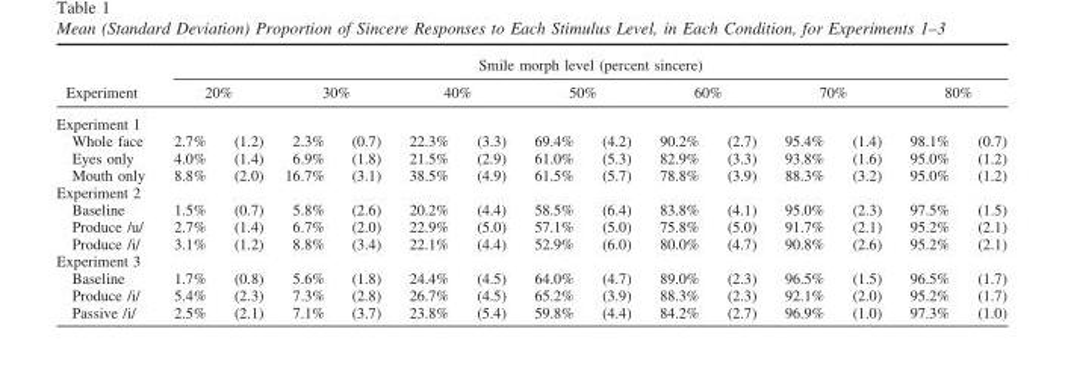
<table><thead><tr><td rowspan="3">Experiment Experiment 1</td><td colspan="14">Smile morph level (percent sincere)</td></tr><tr><td colspan="2">20%</td><td colspan="2">30%</td><td colspan="2">40%</td><td colspan="2">50%</td><td colspan="2">60%</td><td colspan="2">70%</td><td colspan="2">80%</td></tr><tr><td></td><td></td><td></td><td></td><td></td><td></td><td></td><td></td><td></td><td></td><td></td><td></td><td></td><td></td></tr></thead><tbody><tr><td>Whole face</td><td>2.7%</td><td>(1.2)</td><td>2.3%</td><td>(0.7)</td><td>22.3%</td><td>(3.3)</td><td>69.4%</td><td>(4.2)</td><td>90.2%</td><td>(2.7)</td><td>95.4%</td><td>(1.4)</td><td>98.1%</td><td>(0.7)</td></tr><tr><td>Eyes only</td><td>4.0%</td><td>(1.4)</td><td>6.9%</td><td>(1.8)</td><td>21.5%</td><td>(2.9)</td><td>61.0%</td><td>(5.3)</td><td>82.9%</td><td>(3.3)</td><td>93.8%</td><td>(1.6)</td><td>95.0%</td><td>(1.2)</td></tr><tr><td>Mouth only</td><td>8.8%</td><td>(2.0)</td><td>16.7%</td><td>(3.1)</td><td>38.5%</td><td>(4.9)</td><td>61.5%</td><td>(5.7)</td><td>78.8%</td><td>(3.9)</td><td>88.3%</td><td>(3.2)</td><td>95.0%</td><td>(1.2)</td></tr><tr><td colspan="15">Experiment 2</td></tr><tr><td>Baseline</td><td>1.5%</td><td>(0.7)</td><td>5.8%</td><td>(2.6)</td><td>20.2%</td><td>(4.4)</td><td>58.5%</td><td>(6.4)</td><td>83.8%</td><td>(4.1)</td><td>95.0%</td><td>(2.3)</td><td>97.5%</td><td>(1.5)</td></tr><tr><td>Produce /u/</td><td>2.7%</td><td>(1.4)</td><td>6.7%</td><td>(2.0)</td><td>22.9%</td><td>(5.0)</td><td>57.1%</td><td>(5.0)</td><td>75.8%</td><td>(5.0)</td><td>91.7%</td><td>(2.1)</td><td>95.2%</td><td>(2.1)</td></tr><tr><td>Produce /i/</td><td>3.1%</td><td>(1.2)</td><td>8.8%</td><td>(3.4)</td><td>22.1%</td><td>(4.4)</td><td>52.9%</td><td>(6.0)</td><td>80.0%</td><td>(4.7)</td><td>90.8%</td><td>(2.6)</td><td>95.2%</td><td>(2.1)</td></tr><tr><td colspan="15">Experiment 3</td></tr><tr><td>Baseline</td><td>1.7%</td><td>(0.8)</td><td>5.6%</td><td>(1.8)</td><td>24.4%</td><td>(4.5)</td><td>64.0%</td><td>(4.7)</td><td>89.0%</td><td>(2.3)</td><td>96.5%</td><td>(1.5)</td><td>96.5%</td><td>(1.7)</td></tr><tr><td>Produce /i/</td><td>5.4%</td><td>(2.3)</td><td>7.3%</td><td>(2.8)</td><td>26.7%</td><td>(4.5)</td><td>65.2%</td><td>(3.9)</td><td>88.3%</td><td>(2.3)</td><td>92.1%</td><td>(2.0)</td><td>95.2%</td><td>(1.7)</td></tr><tr><td>Passive /i/</td><td>2.5%</td><td>(2.1)</td><td>7.1%</td><td>(3.7)</td><td>23.8%</td><td>(5.4)</td><td>59.8%</td><td>(4.4)</td><td>84.2%</td><td>(2.7)</td><td>96.9%</td><td>(1.0)</td><td>97.3%</td><td>(1.0)</td></tr></tbody></table>